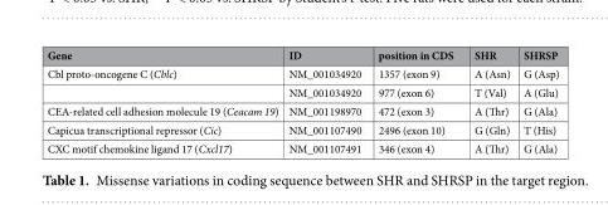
<table><thead><tr><td>Gene</td><td>ID</td><td>position in CDS</td><td>SHR</td><td>SHRSP</td></tr></thead><tbody><tr><td rowspan="2">Cbl proto-oncogene C (Cblc)</td><td>NM_001034920</td><td>1357 (exon 9)</td><td>A (Asn)</td><td>G (Asp)</td></tr><tr><td>NM_001034920</td><td>977 (exon 6)</td><td>T (Val)</td><td>A (Glu)</td></tr><tr><td>CEA-related cell adhesion molecule 19 (Ceacam 19)</td><td>NM_001198970</td><td>472 (exon 3)</td><td>A (Thr)</td><td>G (Ala)</td></tr><tr><td>Capicua transcriptional repressor (Cic)</td><td>NM_001107490</td><td>2496 (exon 10)</td><td>G (Gln)</td><td>T (His)</td></tr><tr><td>CXC motif chemokine ligand 17 (Cxcl17)</td><td>NM_001107491</td><td>346 (exon 4)</td><td>A (Thr)</td><td>G (Ala)</td></tr></tbody></table>